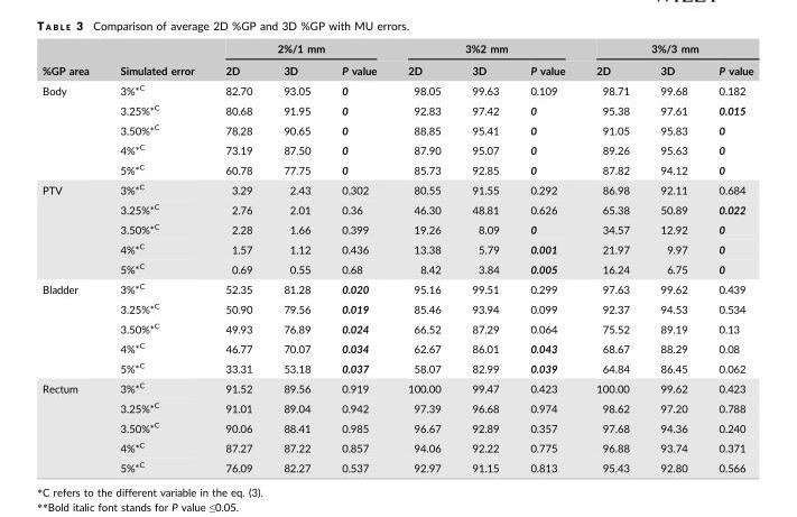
<table><thead><tr><td rowspan="2">%GP area</td><td rowspan="2">Simulated error</td><td colspan="3">2%/1 mm</td><td colspan="3">3%2 mm</td><td colspan="3">3%/3 mm</td></tr><tr><td>2D</td><td>3D</td><td>P value</td><td>2D</td><td>3D</td><td>P value</td><td>2D</td><td>3D</td><td>P value</td></tr></thead><tbody><tr><td rowspan="5">Body</td><td>3%*<sup>C</sup></td><td>82.70</td><td>93.05</td><td>0</td><td>98.05</td><td>99.63</td><td>0.109</td><td>98.71</td><td>99.68</td><td>0.182</td></tr><tr><td>3.25%*<sup>C</sup></td><td>80.68</td><td>91.95</td><td>0</td><td>92.83</td><td>97.42</td><td>0</td><td>95.38</td><td>97.61</td><td>0.015</td></tr><tr><td>3.50%*<sup>C</sup></td><td>78.28</td><td>90.65</td><td>0</td><td>88.85</td><td>95.41</td><td>0</td><td>91.05</td><td>95.83</td><td>0</td></tr><tr><td>4%*<sup>C</sup></td><td>73.19</td><td>87.50</td><td>0</td><td>87.90</td><td>95.07</td><td>0</td><td>89.26</td><td>95.63</td><td>0</td></tr><tr><td>5%*<sup>C</sup></td><td>60.78</td><td>77.75</td><td>0</td><td>85.73</td><td>92.85</td><td>0</td><td>87.82</td><td>94.12</td><td>0</td></tr><tr><td rowspan="5">PTV</td><td>3%*<sup>C</sup></td><td>3.29</td><td>2.43</td><td>0.302</td><td>80.55</td><td>91.55</td><td>0.292</td><td>86.98</td><td>92.11</td><td>0.684</td></tr><tr><td>3.25%*<sup>C</sup></td><td>2.76</td><td>2.01</td><td>0.36</td><td>46.30</td><td>48.81</td><td>0.626</td><td>65.38</td><td>50.89</td><td>0.022</td></tr><tr><td>3.50%*<sup>C</sup></td><td>2.28</td><td>1.66</td><td>0.399</td><td>19.26</td><td>8.09</td><td>0</td><td>34.57</td><td>12.92</td><td>0</td></tr><tr><td>4%*<sup>C</sup></td><td>1.57</td><td>1.12</td><td>0.436</td><td>13.38</td><td>5.79</td><td>0.001</td><td>21.97</td><td>9.97</td><td>0</td></tr><tr><td>5%*<sup>C</sup></td><td>0.69</td><td>0.55</td><td>0.68</td><td>8.42</td><td>3.84</td><td>0.005</td><td>16.24</td><td>6.75</td><td>0</td></tr><tr><td rowspan="5">Bladder</td><td>3%*<sup>C</sup></td><td>52.35</td><td>81.28</td><td>0.020</td><td>95.16</td><td>99.51</td><td>0.299</td><td>97.63</td><td>99.62</td><td>0.439</td></tr><tr><td>3.25%*<sup>C</sup></td><td>50.90</td><td>79.56</td><td>0.019</td><td>85.46</td><td>93.94</td><td>0.099</td><td>92.37</td><td>94.53</td><td>0.534</td></tr><tr><td>3.50%*<sup>C</sup></td><td>49.93</td><td>76.89</td><td>0.024</td><td>66.52</td><td>87.29</td><td>0.064</td><td>75.52</td><td>89.19</td><td>0.13</td></tr><tr><td>4%*<sup>C</sup></td><td>46.77</td><td>70.07</td><td>0.034</td><td>62.67</td><td>86.01</td><td>0.043</td><td>68.67</td><td>88.29</td><td>0.08</td></tr><tr><td>5%*<sup>C</sup></td><td>33.31</td><td>53.18</td><td>0.037</td><td>58.07</td><td>82.99</td><td>0.039</td><td>64.84</td><td>86.45</td><td>0.062</td></tr><tr><td rowspan="5">Rectum</td><td>3%*<sup>C</sup></td><td>91.52</td><td>89.56</td><td>0.919</td><td>100.00</td><td>99.47</td><td>0.423</td><td>100.00</td><td>99.62</td><td>0.423</td></tr><tr><td>3.25%*<sup>C</sup></td><td>91.01</td><td>89.04</td><td>0.942</td><td>97.39</td><td>96.68</td><td>0.974</td><td>98.62</td><td>97.20</td><td>0.788</td></tr><tr><td>3.50%*<sup>C</sup></td><td>90.06</td><td>88.41</td><td>0.985</td><td>96.67</td><td>92.89</td><td>0.357</td><td>97.68</td><td>94.36</td><td>0.240</td></tr><tr><td>4%*<sup>C</sup></td><td>87.27</td><td>87.22</td><td>0.857</td><td>94.06</td><td>92.22</td><td>0.775</td><td>96.88</td><td>93.74</td><td>0.371</td></tr><tr><td>5%*<sup>C</sup></td><td>76.09</td><td>82.27</td><td>0.537</td><td>92.97</td><td>91.15</td><td>0.813</td><td>95.43</td><td>92.80</td><td>0.566</td></tr></tbody></table>